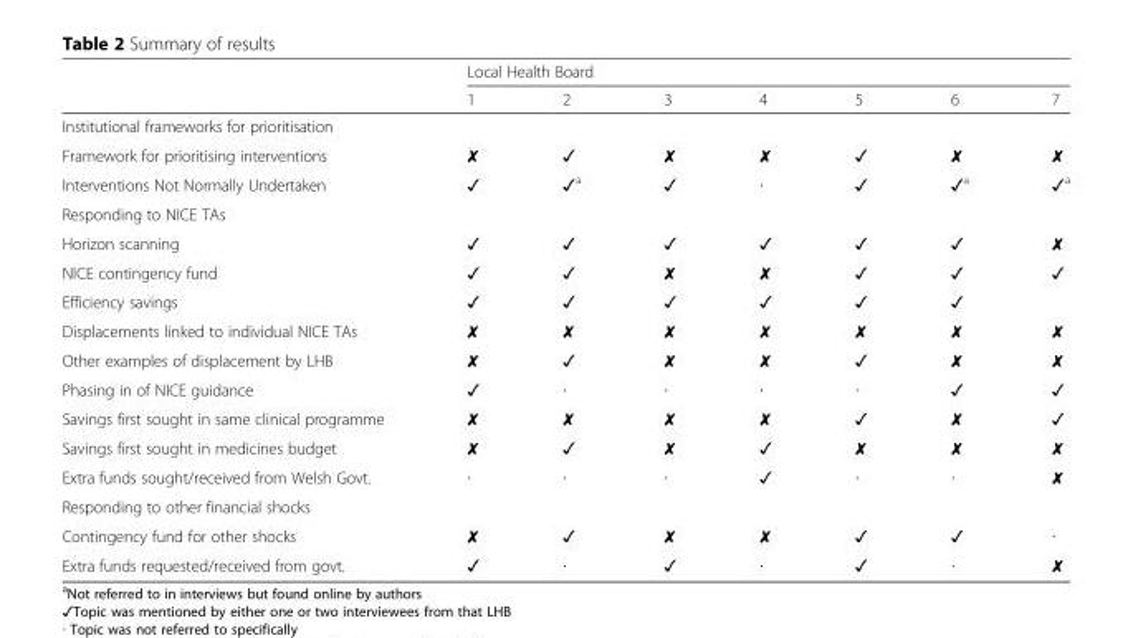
<table><thead><tr><td rowspan="2"></td><td colspan="7">Local Health Board</td></tr><tr><td>1</td><td>2</td><td>3</td><td>4</td><td>5</td><td>6</td><td>7</td></tr></thead><tbody><tr><td colspan="8">Institutional frameworks for prioritisation</td></tr><tr><td>Framework for prioritising interventions</td><td>✘</td><td>✓</td><td>✘</td><td>✘</td><td>✓</td><td>✘</td><td>✘</td></tr><tr><td>Interventions Not Normally Undertaken</td><td>✓</td><td>✓<sup>a</sup></td><td>✓</td><td>∙</td><td>✓</td><td>✓<sup>a</sup></td><td>✓<sup>a</sup></td></tr><tr><td colspan="8">Responding to NICE TAs</td></tr><tr><td>Horizon scanning</td><td>✓</td><td>✓</td><td>✓</td><td>✓</td><td>✓</td><td>✓</td><td>✘</td></tr><tr><td>NICE contingency fund</td><td>✓</td><td>✓</td><td>✘</td><td>✘</td><td>✓</td><td>✓</td><td>✓</td></tr><tr><td>Efficiency savings</td><td>✓</td><td>✓</td><td>✓</td><td>✓</td><td>✓</td><td>✓</td><td></td></tr><tr><td>Displacements linked to individual NICE TAs</td><td>✘</td><td>✘</td><td>✘</td><td>✘</td><td>✘</td><td>✘</td><td>✘</td></tr><tr><td>Other examples of displacement by LHB</td><td>✘</td><td>✓</td><td>✘</td><td>✘</td><td>✓</td><td>✘</td><td>✘</td></tr><tr><td>Phasing in of NICE guidance</td><td>✓</td><td>∙</td><td>∙</td><td>∙</td><td>∙</td><td>✓</td><td>✓</td></tr><tr><td>Savings first sought in same clinical programme</td><td>✘</td><td>✘</td><td>✘</td><td>✘</td><td>✓</td><td>✘</td><td>✓</td></tr><tr><td>Savings first sought in medicines budget</td><td>✘</td><td>✓</td><td>✘</td><td>✓</td><td>✘</td><td>✘</td><td>✘</td></tr><tr><td>Extra funds sought/received from Welsh Govt.</td><td>∙</td><td>∙</td><td>∙</td><td>✓</td><td>∙</td><td>∙</td><td>✘</td></tr><tr><td colspan="8">Responding to other financial shocks</td></tr><tr><td>Contingency fund for other shocks</td><td>✘</td><td>✓</td><td>✘</td><td>✘</td><td>✓</td><td>✓</td><td>∙</td></tr><tr><td>Extra funds requested/received from govt.</td><td>✓</td><td>∙</td><td>✓</td><td>∙</td><td>✓</td><td>∙</td><td>✘</td></tr></tbody></table>